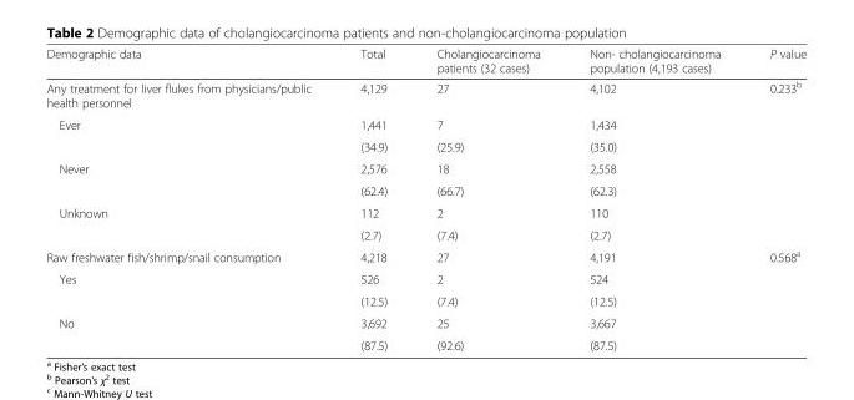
<table><thead><tr><td>Demographic data</td><td>Total</td><td>Cholangiocarcinoma patients (32 cases)</td><td>Non- cholangiocarcinoma population (4,193 cases)</td><td>P value</td></tr></thead><tbody><tr><td>Any treatment for liver flukes from physicians/public health personnel</td><td>4,129</td><td>27</td><td>4,102</td><td>0.233<sup>b</sup></td></tr><tr><td rowspan="2">Ever</td><td>1,441</td><td>7</td><td>1,434</td><td rowspan="2"></td></tr><tr><td>(34.9)</td><td>(25.9)</td><td>(35.0)</td></tr><tr><td rowspan="2">Never</td><td>2,576</td><td>18</td><td>2,558</td><td rowspan="2"></td></tr><tr><td>(62.4)</td><td>(66.7)</td><td>(62.3)</td></tr><tr><td rowspan="2">Unknown</td><td>112</td><td>2</td><td>110</td><td rowspan="2"></td></tr><tr><td>(2.7)</td><td>(7.4)</td><td>(2.7)</td></tr><tr><td>Raw freshwater fish/shrimp/snail consumption</td><td>4,218</td><td>27</td><td>4,191</td><td>0.568<sup>a</sup></td></tr><tr><td rowspan="2">Yes</td><td>526</td><td>2</td><td>524</td><td rowspan="2"></td></tr><tr><td>(12.5)</td><td>(7.4)</td><td>(12.5)</td></tr><tr><td rowspan="2">No</td><td>3,692</td><td>25</td><td>3,667</td><td rowspan="2"></td></tr><tr><td>(87.5)</td><td>(92.6)</td><td>(87.5)</td></tr></tbody></table>